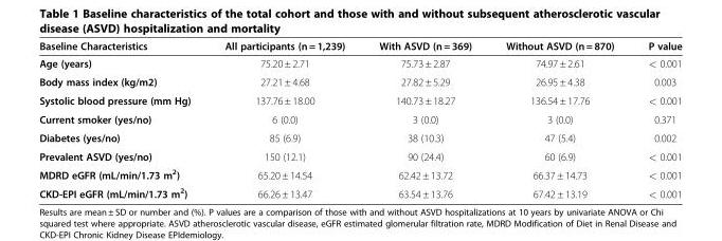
<table><thead><tr><td>Baseline Characteristics</td><td>All participants (n = 1,239)</td><td>With ASVD (n = 369)</td><td>Without ASVD (n = 870)</td><td>P value</td></tr></thead><tbody><tr><td>Age (years)</td><td>75.20 ± 2.71</td><td>75.73 ± 2.87</td><td>74.97 ± 2.61</td><td>&lt; 0.001</td></tr><tr><td>Body mass index (kg/m2)</td><td>27.21 ± 4.68</td><td>27.82 ± 5.29</td><td>26.95 ± 4.38</td><td>0.003</td></tr><tr><td>Systolic blood pressure (mm Hg)</td><td>137.76 ± 18.00</td><td>140.73 ± 18.27</td><td>136.54 ± 17.76</td><td>&lt; 0.001</td></tr><tr><td>Current smoker (yes/no)</td><td>6 (0.0)</td><td>3 (0.0)</td><td>3 (0.0)</td><td>0.371</td></tr><tr><td>Diabetes (yes/no)</td><td>85 (6.9)</td><td>38 (10.3)</td><td>47 (5.4)</td><td>0.002</td></tr><tr><td>Prevalent ASVD (yes/no)</td><td>150 (12.1)</td><td>90 (24.4)</td><td>60 (6.9)</td><td>&lt; 0.001</td></tr><tr><td>MDRD eGFR (mL/min/1.73 m<sup>2</sup>)</td><td>65.20 ± 14.54</td><td>62.42 ± 13.72</td><td>66.37 ± 14.73</td><td>&lt; 0.001</td></tr><tr><td>CKD-EPI eGFR (mL/min/1.73 m<sup>2</sup>)</td><td>66.26 ± 13.47</td><td>63.54 ± 13.76</td><td>67.42 ± 13.19</td><td>&lt; 0.001</td></tr></tbody></table>